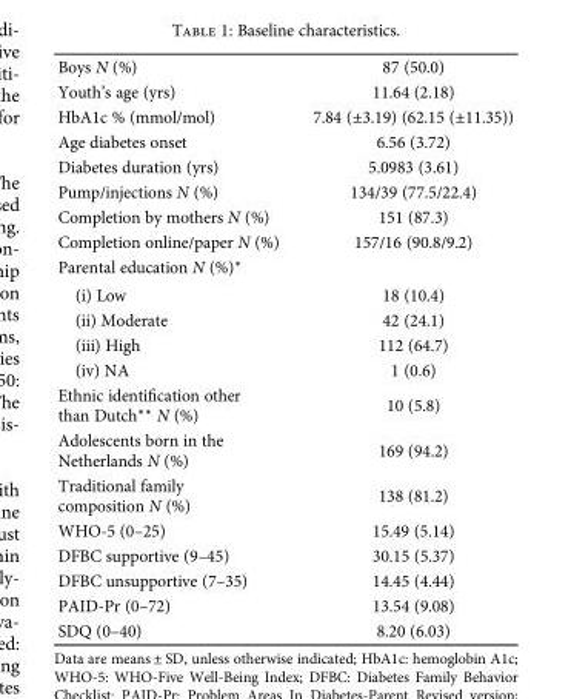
<table><tbody><tr><td>Boys N (%)</td><td>87 (50.0)</td></tr><tr><td>Youth’s age (yrs)</td><td>11.64 (2.18)</td></tr><tr><td>HbA1c % (mmol/mol)</td><td>7.84 (±3.19) (62.15 (±11.35))</td></tr><tr><td>Age diabetes onset</td><td>6.56 (3.72)</td></tr><tr><td>Diabetes duration (yrs)</td><td>5.0983 (3.61)</td></tr><tr><td>Pump/injections N (%)</td><td>134/39 (77.5/22.4)</td></tr><tr><td>Completion by mothers N (%)</td><td>151 (87.3)</td></tr><tr><td>Completion online/paper N (%)</td><td>157/16 (90.8/9.2)</td></tr><tr><td colspan="2">Parental education N (%)∗</td></tr><tr><td>(i) Low</td><td>18 (10.4)</td></tr><tr><td>(ii) Moderate</td><td>42 (24.1)</td></tr><tr><td>(iii) High</td><td>112 (64.7)</td></tr><tr><td>(iv) NA</td><td>1 (0.6)</td></tr><tr><td>Ethnic identification other than Dutch∗∗ N (%)</td><td>10 (5.8)</td></tr><tr><td>Adolescents born in the Netherlands N (%)</td><td>169 (94.2)</td></tr><tr><td>Traditional family composition N (%)</td><td>138 (81.2)</td></tr><tr><td>WHO-5 (0–25)</td><td>15.49 (5.14)</td></tr><tr><td>DFBC supportive (9–45)</td><td>30.15 (5.37)</td></tr><tr><td>DFBC unsupportive (7–35)</td><td>14.45 (4.44)</td></tr><tr><td>PAID-Pr (0–72)</td><td>13.54 (9.08)</td></tr><tr><td>SDQ (0–40)</td><td>8.20 (6.03)</td></tr></tbody></table>